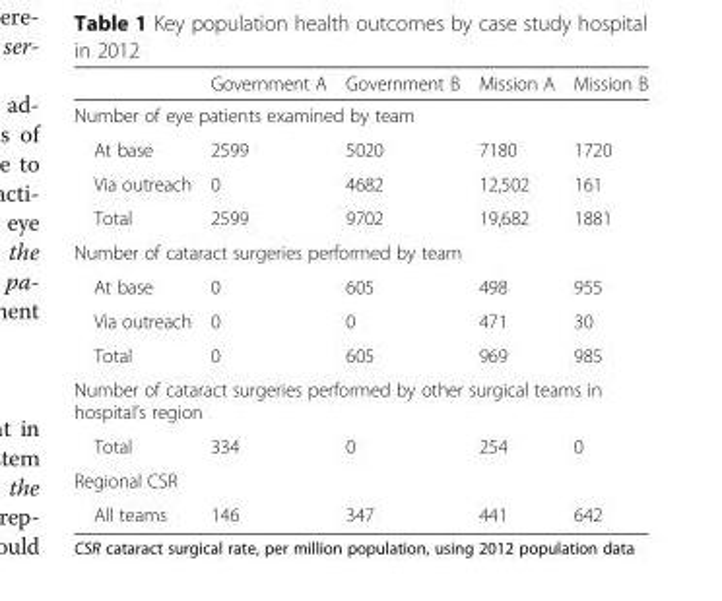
<table><thead><tr><td></td><td>Government A</td><td>Government B</td><td>Mission A</td><td>Mission B</td></tr></thead><tbody><tr><td colspan="5">Number of eye patients examined by team</td></tr><tr><td>At base</td><td>2599</td><td>5020</td><td>7180</td><td>1720</td></tr><tr><td>Via outreach</td><td>0</td><td>4682</td><td>12,502</td><td>161</td></tr><tr><td>Total</td><td>2599</td><td>9702</td><td>19,682</td><td>1881</td></tr><tr><td colspan="5">Number of cataract surgeries performed by team</td></tr><tr><td>At base</td><td>0</td><td>605</td><td>498</td><td>955</td></tr><tr><td>Via outreach</td><td>0</td><td>0</td><td>471</td><td>30</td></tr><tr><td>Total</td><td>0</td><td>605</td><td>969</td><td>985</td></tr><tr><td colspan="5">Number of cataract surgeries performed by other surgical teams in hospital’s region</td></tr><tr><td>Total</td><td>334</td><td>0</td><td>254</td><td>0</td></tr><tr><td colspan="5">Regional CSR</td></tr><tr><td>All teams</td><td>146</td><td>347</td><td>441</td><td>642</td></tr></tbody></table>